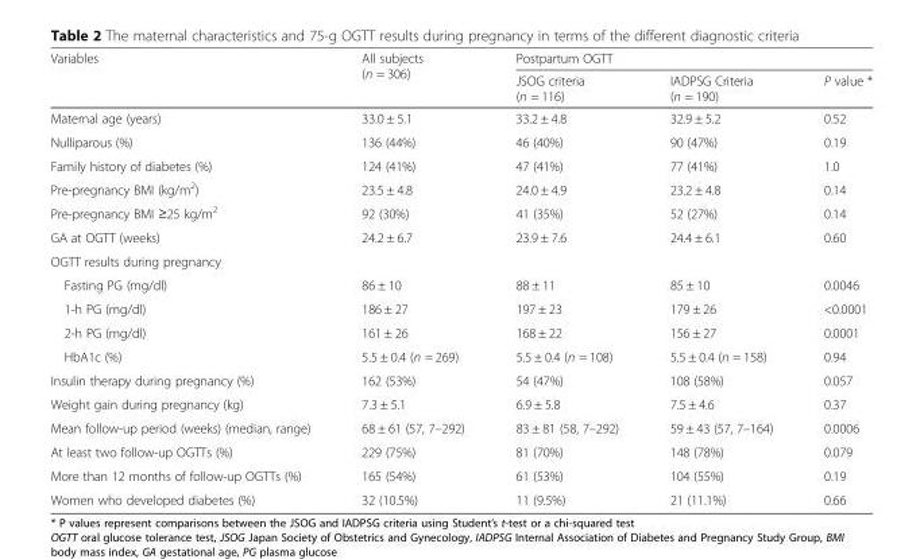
<table><thead><tr><td rowspan="2">Variables</td><td rowspan="2">All subjects (n = 306)</td><td colspan="3">Postpartum OGTT</td></tr><tr><td>JSOG criteria (n = 116)</td><td>IADPSG Criteria (n = 190)</td><td>P value *</td></tr></thead><tbody><tr><td>Maternal age (years)</td><td>33.0 ± 5.1</td><td>33.2 ± 4.8</td><td>32.9 ± 5.2</td><td>0.52</td></tr><tr><td>Nulliparous (%)</td><td>136 (44%)</td><td>46 (40%)</td><td>90 (47%)</td><td>0.19</td></tr><tr><td>Family history of diabetes (%)</td><td>124 (41%)</td><td>47 (41%)</td><td>77 (41%)</td><td>1.0</td></tr><tr><td>Pre-pregnancy BMI (kg/m<sup>2</sup>)</td><td>23.5 ± 4.8</td><td>24.0 ± 4.9</td><td>23.2 ± 4.8</td><td>0.14</td></tr><tr><td>Pre-pregnancy BMI ≥25 kg/m<sup>2</sup></td><td>92 (30%)</td><td>41 (35%)</td><td>52 (27%)</td><td>0.14</td></tr><tr><td>GA at OGTT (weeks)</td><td>24.2 ± 6.7</td><td>23.9 ± 7.6</td><td>24.4 ± 6.1</td><td>0.60</td></tr><tr><td colspan="5">OGTT results during pregnancy</td></tr><tr><td>Fasting PG (mg/dl)</td><td>86 ± 10</td><td>88 ± 11</td><td>85 ± 10</td><td>0.0046</td></tr><tr><td>1-h PG (mg/dl)</td><td>186 ± 27</td><td>197 ± 23</td><td>179 ± 26</td><td>&lt;0.0001</td></tr><tr><td>2-h PG (mg/dl)</td><td>161 ± 26</td><td>168 ± 22</td><td>156 ± 27</td><td>0.0001</td></tr><tr><td>HbA1c (%)</td><td>5.5 ± 0.4 (n = 269)</td><td>5.5 ± 0.4 (n = 108)</td><td>5.5 ± 0.4 (n = 158)</td><td>0.94</td></tr><tr><td>Insulin therapy during pregnancy (%)</td><td>162 (53%)</td><td>54 (47%)</td><td>108 (58%)</td><td>0.057</td></tr><tr><td>Weight gain during pregnancy (kg)</td><td>7.3 ± 5.1</td><td>6.9 ± 5.8</td><td>7.5 ± 4.6</td><td>0.37</td></tr><tr><td>Mean follow-up period (weeks) (median, range)</td><td>68 ± 61 (57, 7–292)</td><td>83 ± 81 (58, 7–292)</td><td>59 ± 43 (57, 7–164)</td><td>0.0006</td></tr><tr><td>At least two follow-up OGTTs (%)</td><td>229 (75%)</td><td>81 (70%)</td><td>148 (78%)</td><td>0.079</td></tr><tr><td>More than 12 months of follow-up OGTTs (%)</td><td>165 (54%)</td><td>61 (53%)</td><td>104 (55%)</td><td>0.19</td></tr><tr><td>Women who developed diabetes (%)</td><td>32 (10.5%)</td><td>11 (9.5%)</td><td>21 (11.1%)</td><td>0.66</td></tr></tbody></table>